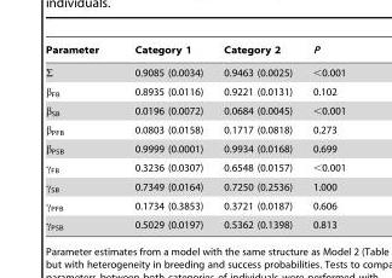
<table><thead><tr><td>Parameter</td><td>Category 1</td><td>Category 2</td><td>P</td></tr></thead><tbody><tr><td>Σ</td><td>0.9085 (0.0034)</td><td>0.9463 (0.0025)</td><td>&lt;0.001</td></tr><tr><td>β<sub>FB</sub></td><td>0.8935 (0.0116)</td><td>0.9221 (0.0131)</td><td>0.102</td></tr><tr><td>β<sub>SB</sub></td><td>0.0196 (0.0072)</td><td>0.0684 (0.0045)</td><td>&lt;0.001</td></tr><tr><td>β<sub>PFB</sub></td><td>0.0803 (0.0158)</td><td>0.1717 (0.0818)</td><td>0.273</td></tr><tr><td>β<sub>PSB</sub></td><td>0.9999 (0.0001)</td><td>0.9934 (0.0168)</td><td>0.699</td></tr><tr><td>γ<sub>FB</sub></td><td>0.3236 (0.0307)</td><td>0.6548 (0.0157)</td><td>&lt;0.001</td></tr><tr><td>γ<sub>SB</sub></td><td>0.7349 (0.0164)</td><td>0.7250 (0.2536)</td><td>1.000</td></tr><tr><td>γ<sub>PFB</sub></td><td>0.1734 (0.3853)</td><td>0.3721 (0.0187)</td><td>0.606</td></tr><tr><td>γ<sub>PSB</sub></td><td>0.5029 (0.0197)</td><td>0.5362 (0.1398)</td><td>0.813</td></tr></tbody></table>